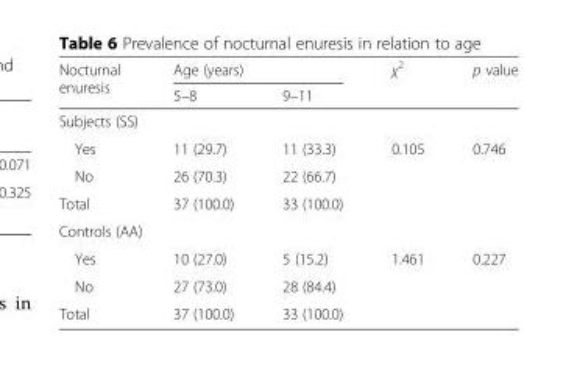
<table><thead><tr><td rowspan="2">Nocturnal enuresis</td><td colspan="2">Age (years)</td><td rowspan="2">χ<sup>2</sup></td><td rowspan="2">p value</td></tr><tr><td>5–8</td><td>9–11</td></tr></thead><tbody><tr><td colspan="5">Subjects (SS)</td></tr><tr><td>Yes</td><td>11 (29.7)</td><td>11 (33.3)</td><td>0.105</td><td>0.746</td></tr><tr><td>No</td><td>26 (70.3)</td><td>22 (66.7)</td><td></td><td></td></tr><tr><td>Total</td><td>37 (100.0)</td><td>33 (100.0)</td><td></td><td></td></tr><tr><td colspan="5">Controls (AA)</td></tr><tr><td>Yes</td><td>10 (27.0)</td><td>5 (15.2)</td><td>1.461</td><td>0.227</td></tr><tr><td>No</td><td>27 (73.0)</td><td>28 (84.4)</td><td></td><td></td></tr><tr><td>Total</td><td>37 (100.0)</td><td>33 (100.0)</td><td></td><td></td></tr></tbody></table>